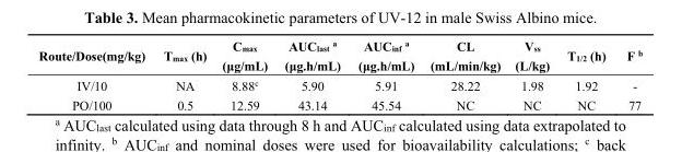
<table><thead><tr><td>Route/Dose(mg/kg)</td><td>T<sub>max</sub> (h)</td><td>C<sub>max</sub> (μg/mL)</td><td>AUC<sub>last</sub> <sup>a</sup> (μg.h/mL)</td><td>AUC<sub>inf</sub> <sup>a</sup> (μg.h/mL)</td><td>CL (mL/min/kg)</td><td>V<sub>ss</sub> (L/kg)</td><td>T<sub>1/2</sub> (h)</td><td>F <sup>b</sup></td></tr></thead><tbody><tr><td>IV/10</td><td>NA</td><td>8.88<sup>c</sup></td><td>5.90</td><td>5.91</td><td>28.22</td><td>1.98</td><td>1.92</td><td>-</td></tr><tr><td>PO/100</td><td>0.5</td><td>12.59</td><td>43.14</td><td>45.54</td><td>NC</td><td>NC</td><td>NC</td><td>77</td></tr></tbody></table>